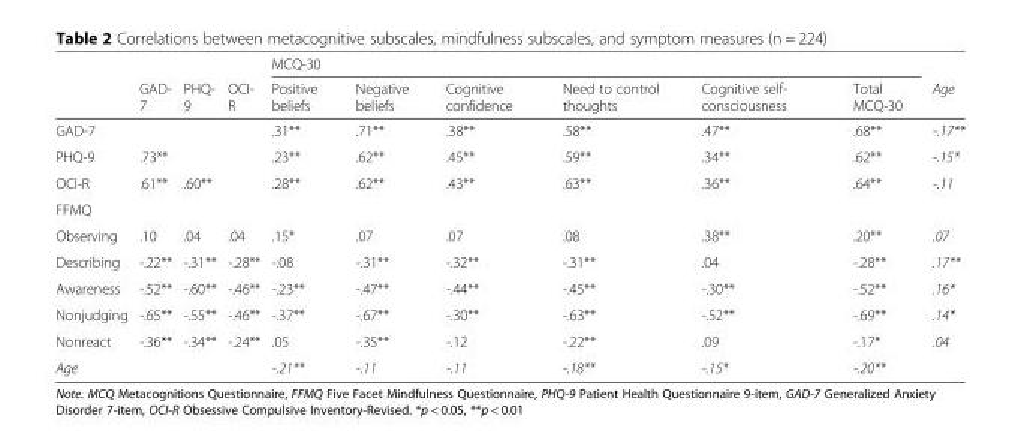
<table><thead><tr><td rowspan="2"></td><td rowspan="2">GAD- 7</td><td rowspan="2">PHQ- 9</td><td rowspan="2">OCI- R</td><td colspan="6">MCQ-30</td><td rowspan="2">Age</td></tr><tr><td>Positive beliefs</td><td>Negative beliefs</td><td>Cognitive confidence</td><td>Need to control thoughts</td><td>Cognitive self- consciousness</td><td>Total MCQ-30</td></tr></thead><tbody><tr><td>GAD-7</td><td></td><td></td><td></td><td>.31**</td><td>.71**</td><td>.38**</td><td>.58**</td><td>.47**</td><td>.68**</td><td>-.17**</td></tr><tr><td>PHQ-9</td><td>.73**</td><td></td><td></td><td>.23**</td><td>.62**</td><td>.45**</td><td>.59**</td><td>.34**</td><td>.62**</td><td>-.15*</td></tr><tr><td>OCI-R</td><td>.61**</td><td>.60**</td><td></td><td>.28**</td><td>.62**</td><td>.43**</td><td>.63**</td><td>.36**</td><td>.64**</td><td>-.11</td></tr><tr><td colspan="11">FFMQ</td></tr><tr><td>Observing</td><td>.10</td><td>.04</td><td>.04</td><td>.15*</td><td>.07</td><td>.07</td><td>.08</td><td>.38**</td><td>.20**</td><td>.07</td></tr><tr><td>Describing</td><td>-.22**</td><td>-.31**</td><td>-.28**</td><td>-.08</td><td>-.31**</td><td>-.32**</td><td>-.31**</td><td>.04</td><td>-.28**</td><td>.17**</td></tr><tr><td>Awareness</td><td>-.52**</td><td>-.60**</td><td>-.46**</td><td>-.23**</td><td>-.47**</td><td>-.44**</td><td>-.45**</td><td>-.30**</td><td>-.52**</td><td>.16*</td></tr><tr><td>Nonjudging</td><td>-.65**</td><td>-.55**</td><td>-.46**</td><td>-.37**</td><td>-.67**</td><td>-.30**</td><td>-.63**</td><td>-.52**</td><td>-.69**</td><td>.14*</td></tr><tr><td>Nonreact</td><td>-.36**</td><td>-.34**</td><td>-.24**</td><td>.05</td><td>-.35**</td><td>-.12</td><td>-.22**</td><td>.09</td><td>-.17*</td><td>.04</td></tr><tr><td>Age</td><td></td><td></td><td></td><td>-.21**</td><td>-.11</td><td>-.11</td><td>-.18**</td><td>-.15*</td><td>-.20**</td><td></td></tr></tbody></table>